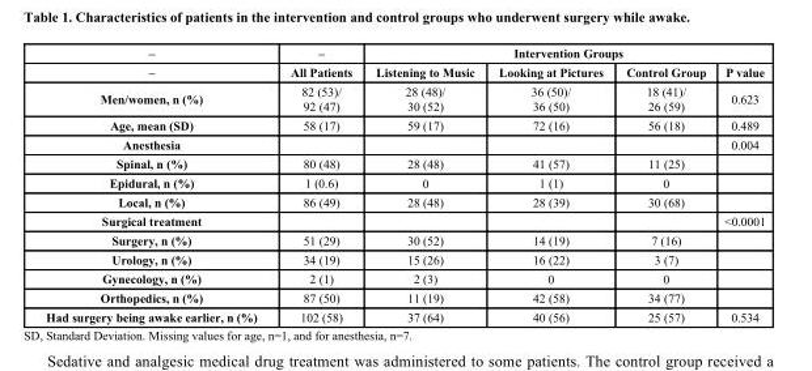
<table><thead><tr><td rowspan="2">– –</td><td rowspan="2">– All Patients</td><td colspan="4">Intervention Groups</td></tr><tr><td>Listening to Music</td><td>Looking at Pictures</td><td>Control Group</td><td>P value</td></tr></thead><tbody><tr><td>Men/women, n (%)</td><td>82 (53)/ 92 (47)</td><td>28 (48)/ 30 (52)</td><td>36 (50)/ 36 (50)</td><td>18 (41)/ 26 (59)</td><td>0.623</td></tr><tr><td>Age, mean (SD)</td><td>58 (17)</td><td>59 (17)</td><td>72 (16)</td><td>56 (18)</td><td>0.489</td></tr><tr><td>Anesthesia</td><td></td><td></td><td></td><td></td><td>0.004</td></tr><tr><td>Spinal, n (%)</td><td>80 (48)</td><td>28 (48)</td><td>41 (57)</td><td>11 (25)</td><td></td></tr><tr><td>Epidural, n (%)</td><td>1 (0.6)</td><td>0</td><td>1 (1)</td><td>0</td><td></td></tr><tr><td>Local, n (%)</td><td>86 (49)</td><td>28 (48)</td><td>28 (39)</td><td>30 (68)</td><td></td></tr><tr><td>Surgical treatment</td><td></td><td></td><td></td><td></td><td>&lt;0.0001</td></tr><tr><td>Surgery, n (%)</td><td>51 (29)</td><td>30 (52)</td><td>14 (19)</td><td>7 (16)</td><td></td></tr><tr><td>Urology, n (%)</td><td>34 (19)</td><td>15 (26)</td><td>16 (22)</td><td>3 (7)</td><td></td></tr><tr><td>Gynecology, n (%)</td><td>2 (1)</td><td>2 (3)</td><td>0</td><td>0</td><td></td></tr><tr><td>Orthopedics, n (%)</td><td>87 (50)</td><td>11 (19)</td><td>42 (58)</td><td>34 (77)</td><td></td></tr><tr><td>Had surgery being awake earlier, n (%)</td><td>102 (58)</td><td>37 (64)</td><td>40 (56)</td><td>25 (57)</td><td>0.534</td></tr></tbody></table>